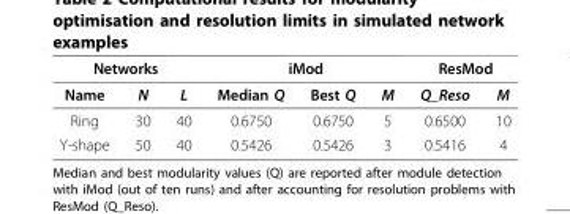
<table><thead><tr><td colspan="3">Networks</td><td colspan="3">iMod</td><td colspan="2">ResMod</td></tr><tr><td>Name</td><td>N</td><td>L</td><td>Median Q</td><td>Best Q</td><td>M</td><td>Q_Reso</td><td>M</td></tr></thead><tbody><tr><td>Ring</td><td>30</td><td>40</td><td>0.6750</td><td>0.6750</td><td>5</td><td>0.6500</td><td>10</td></tr><tr><td>Y-shape</td><td>50</td><td>40</td><td>0.5426</td><td>0.5426</td><td>3</td><td>0.5416</td><td>4</td></tr></tbody></table>